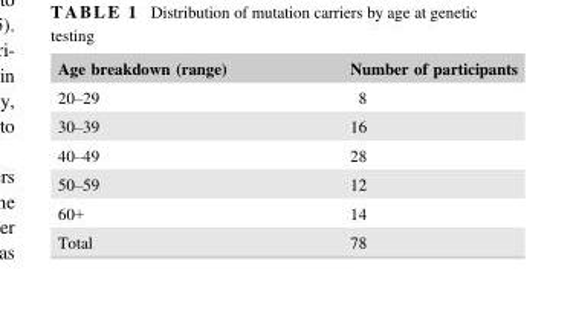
<table><thead><tr><td>Age breakdown (range)</td><td>Number of participants</td></tr></thead><tbody><tr><td>20–29</td><td>8</td></tr><tr><td>30–39</td><td>16</td></tr><tr><td>40–49</td><td>28</td></tr><tr><td>50–59</td><td>12</td></tr><tr><td>60+</td><td>14</td></tr><tr><td>Total</td><td>78</td></tr></tbody></table>